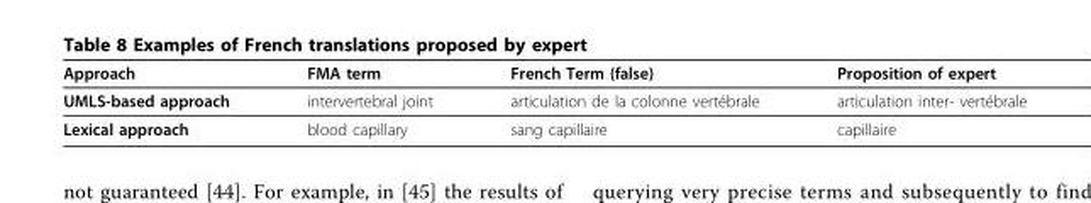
<table><thead><tr><td>Approach</td><td>FMA term</td><td>French Term (false)</td><td>Proposition of expert</td></tr></thead><tbody><tr><td>UMLS-based approach</td><td>intervertebral joint</td><td>articulation de la colonne vertébrale</td><td>articulation inter- vertébrale</td></tr><tr><td>Lexical approach</td><td>blood capillary</td><td>sang capillaire</td><td>capillaire</td></tr></tbody></table>